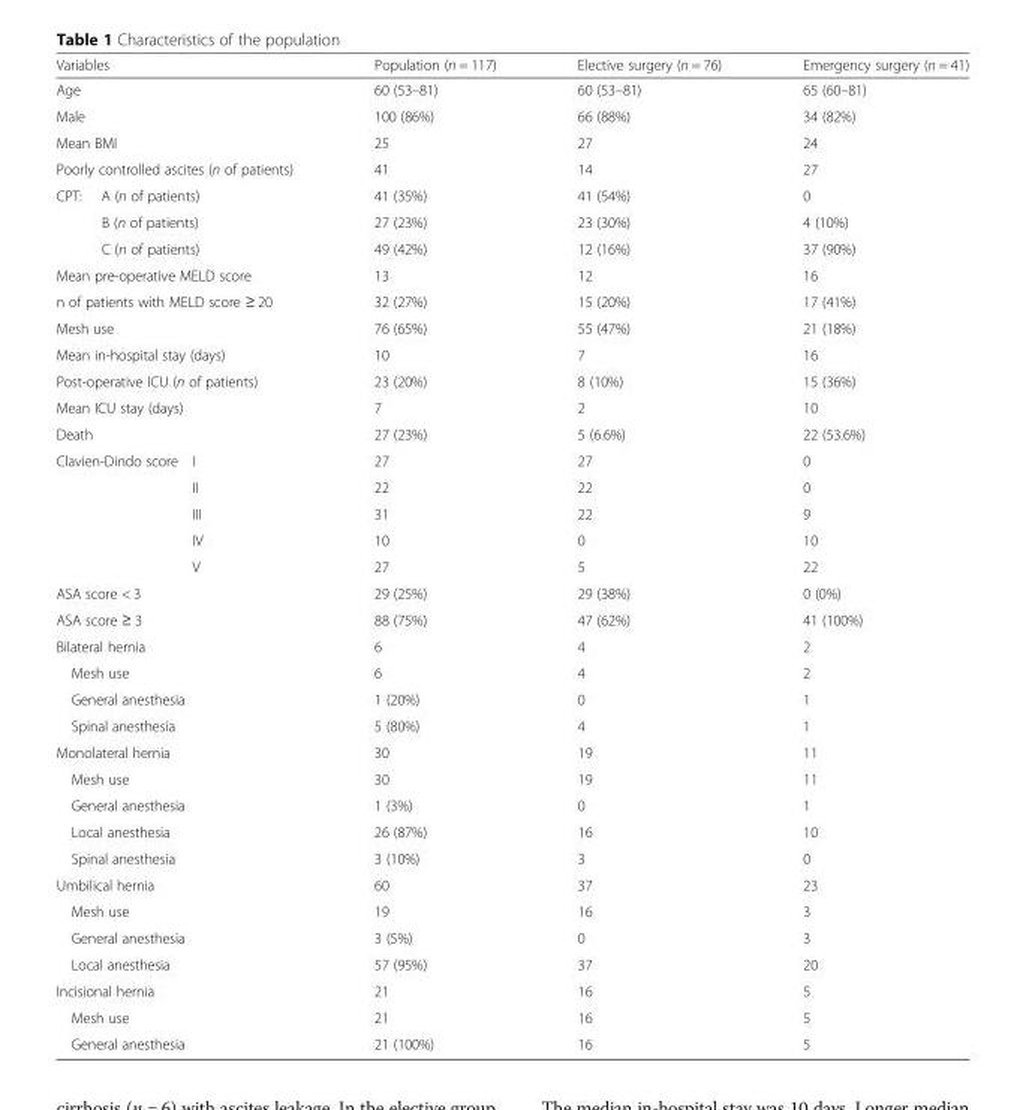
<table><thead><tr><td>Variables</td><td>Population (n = 117)</td><td>Elective surgery (n = 76)</td><td>Emergency surgery (n = 41)</td></tr></thead><tbody><tr><td>Age</td><td>60 (53–81)</td><td>60 (53–81)</td><td>65 (60–81)</td></tr><tr><td>Male</td><td>100 (86%)</td><td>66 (88%)</td><td>34 (82%)</td></tr><tr><td>Mean BMI</td><td>25</td><td>27</td><td>24</td></tr><tr><td>Poorly controlled ascites (n of patients)</td><td>41</td><td>14</td><td>27</td></tr><tr><td>CPT: A (n of patients)</td><td>41 (35%)</td><td>41 (54%)</td><td>0</td></tr><tr><td>B (n of patients)</td><td>27 (23%)</td><td>23 (30%)</td><td>4 (10%)</td></tr><tr><td>C (n of patients)</td><td>49 (42%)</td><td>12 (16%)</td><td>37 (90%)</td></tr><tr><td>Mean pre-operative MELD score</td><td>13</td><td>12</td><td>16</td></tr><tr><td>n of patients with MELD score ≥ 20</td><td>32 (27%)</td><td>15 (20%)</td><td>17 (41%)</td></tr><tr><td>Mesh use</td><td>76 (65%)</td><td>55 (47%)</td><td>21 (18%)</td></tr><tr><td>Mean in-hospital stay (days)</td><td>10</td><td>7</td><td>16</td></tr><tr><td>Post-operative ICU (n of patients)</td><td>23 (20%)</td><td>8 (10%)</td><td>15 (36%)</td></tr><tr><td>Mean ICU stay (days)</td><td>7</td><td>2</td><td>10</td></tr><tr><td>Death</td><td>27 (23%)</td><td>5 (6.6%)</td><td>22 (53.6%)</td></tr><tr><td>Clavien-Dindo score I</td><td>27</td><td>27</td><td>0</td></tr><tr><td>II</td><td>22</td><td>22</td><td>0</td></tr><tr><td>III</td><td>31</td><td>22</td><td>9</td></tr><tr><td>IV</td><td>10</td><td>0</td><td>10</td></tr><tr><td>V</td><td>27</td><td>5</td><td>22</td></tr><tr><td>ASA score &lt; 3</td><td>29 (25%)</td><td>29 (38%)</td><td>0 (0%)</td></tr><tr><td>ASA score ≥ 3</td><td>88 (75%)</td><td>47 (62%)</td><td>41 (100%)</td></tr><tr><td>Bilateral hernia</td><td>6</td><td>4</td><td>2</td></tr><tr><td>Mesh use</td><td>6</td><td>4</td><td>2</td></tr><tr><td>General anesthesia</td><td>1 (20%)</td><td>0</td><td>1</td></tr><tr><td>Spinal anesthesia</td><td>5 (80%)</td><td>4</td><td>1</td></tr><tr><td>Monolateral hernia</td><td>30</td><td>19</td><td>11</td></tr><tr><td>Mesh use</td><td>30</td><td>19</td><td>11</td></tr><tr><td>General anesthesia</td><td>1 (3%)</td><td>0</td><td>1</td></tr><tr><td>Local anesthesia</td><td>26 (87%)</td><td>16</td><td>10</td></tr><tr><td>Spinal anesthesia</td><td>3 (10%)</td><td>3</td><td>0</td></tr><tr><td>Umbilical hernia</td><td>60</td><td>37</td><td>23</td></tr><tr><td>Mesh use</td><td>19</td><td>16</td><td>3</td></tr><tr><td>General anesthesia</td><td>3 (5%)</td><td>0</td><td>3</td></tr><tr><td>Local anesthesia</td><td>57 (95%)</td><td>37</td><td>20</td></tr><tr><td>Incisional hernia</td><td>21</td><td>16</td><td>5</td></tr><tr><td>Mesh use</td><td>21</td><td>16</td><td>5</td></tr><tr><td>General anesthesia</td><td>21 (100%)</td><td>16</td><td>5</td></tr></tbody></table>